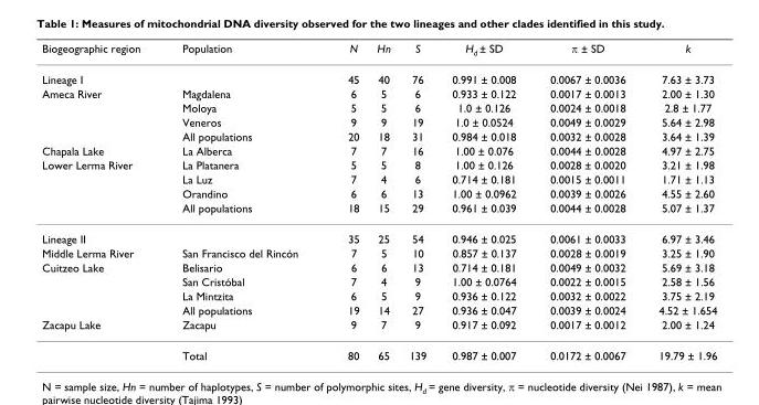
<table><thead><tr><td>Biogeographic region</td><td>Population</td><td>N</td><td>Hn</td><td>S</td><td>H<sub>d</sub> ± SD</td><td>π ± SD</td><td>k</td></tr></thead><tbody><tr><td>Lineage I</td><td></td><td>45</td><td>40</td><td>76</td><td>0.991 ± 0.008</td><td>0.0067 ± 0.0036</td><td>7.63 ± 3.73</td></tr><tr><td rowspan="4">Ameca River</td><td>Magdalena</td><td>6</td><td>5</td><td>6</td><td>0.933 ± 0.122</td><td>0.0017 ± 0.0013</td><td>2.00 ± 1.30</td></tr><tr><td>Moloya</td><td>5</td><td>5</td><td>6</td><td>1.0 ± 0.126</td><td>0.0024 ± 0.0018</td><td>2.8 ± 1.77</td></tr><tr><td>Veneros</td><td>9</td><td>9</td><td>19</td><td>1.0 ± 0.0524</td><td>0.0049 ± 0.0029</td><td>5.64 ± 2.98</td></tr><tr><td>All populations</td><td>20</td><td>18</td><td>31</td><td>0.984 ± 0.018</td><td>0.0032 ± 0.0028</td><td>3.64 ± 1.39</td></tr><tr><td>Chapala Lake</td><td>La Alberca</td><td>7</td><td>7</td><td>16</td><td>1.00 ± 0.076</td><td>0.0044 ± 0.0028</td><td>4.97 ± 2.75</td></tr><tr><td rowspan="4">Lower Lerma River</td><td>La Platanera</td><td>5</td><td>5</td><td>8</td><td>1.00 ± 0.126</td><td>0.0028 ± 0.0020</td><td>3.21 ± 1.98</td></tr><tr><td>La Luz</td><td>7</td><td>4</td><td>6</td><td>0.714 ± 0.181</td><td>0.0015 ± 0.0011</td><td>1.71 ± 1.13</td></tr><tr><td>Orandino</td><td>6</td><td>6</td><td>13</td><td>1.00 ± 0.0962</td><td>0.0039 ± 0.0026</td><td>4.55 ± 2.60</td></tr><tr><td>All populations</td><td>18</td><td>15</td><td>29</td><td>0.961 ± 0.039</td><td>0.0044 ± 0.0028</td><td>5.07 ± 1.37</td></tr><tr><td>Lineage II</td><td></td><td>35</td><td>25</td><td>54</td><td>0.946 ± 0.025</td><td>0.0061 ± 0.0033</td><td>6.97 ± 3.46</td></tr><tr><td>Middle Lerma River</td><td>San Francisco del Rincón</td><td>7</td><td>5</td><td>10</td><td>0.857 ± 0.137</td><td>0.0028 ± 0.0019</td><td>3.25 ± 1.90</td></tr><tr><td rowspan="4">Cuitzeo Lake</td><td>Belisario</td><td>6</td><td>6</td><td>13</td><td>0.714 ± 0.181</td><td>0.0049 ± 0.0032</td><td>5.69 ± 3.18</td></tr><tr><td>San Cristóbal</td><td>7</td><td>4</td><td>9</td><td>1.00 ± 0.0764</td><td>0.0022 ± 0.0015</td><td>2.58 ± 1.56</td></tr><tr><td>La Mintzita</td><td>6</td><td>5</td><td>9</td><td>0.936 ± 0.122</td><td>0.0032 ± 0.0022</td><td>3.75 ± 2.19</td></tr><tr><td>All populations</td><td>19</td><td>14</td><td>27</td><td>0.936 ± 0.047</td><td>0.0039 ± 0.0024</td><td>4.52 ± 1.654</td></tr><tr><td rowspan="2">Zacapu Lake</td><td>Zacapu</td><td>9</td><td>7</td><td>9</td><td>0.917 ± 0.092</td><td>0.0017 ± 0.0012</td><td>2.00 ± 1.24</td></tr><tr><td>Total</td><td>80</td><td>65</td><td>139</td><td>0.987 ± 0.007</td><td>0.0172 ± 0.0067</td><td>19.79 ± 1.96</td></tr></tbody></table>